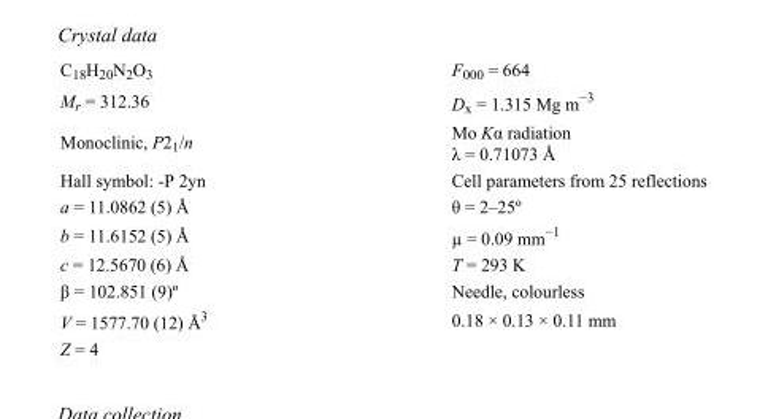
<table><tbody><tr><td>C<sub>18</sub>H<sub>20</sub>N<sub>2</sub>O<sub>3</sub></td><td>F000 = 664</td></tr><tr><td>M<sub>r</sub> = 312.36</td><td>D<sub>x</sub> = 1.315 Mg m<sup>−3</sup></td></tr><tr><td>Monoclinic, P2<sub>1</sub>/n</td><td>Mo Kα radiation λ = 0.71073 Å</td></tr><tr><td>Hall symbol: -P 2yn</td><td>Cell parameters from 25 reflections</td></tr><tr><td>a = 11.0862 (5) Å</td><td>θ = 2–25º</td></tr><tr><td>b = 11.6152 (5) Å</td><td>µ = 0.09 mm<sup>−1</sup></td></tr><tr><td>c = 12.5670 (6) Å</td><td>T = 293 K</td></tr><tr><td>β = 102.851 (9)º</td><td>Needle, colourless</td></tr><tr><td>V = 1577.70 (12) Å<sup>3</sup></td><td>0.18 × 0.13 × 0.11 mm</td></tr><tr><td>Z = 4</td><td></td></tr></tbody></table>